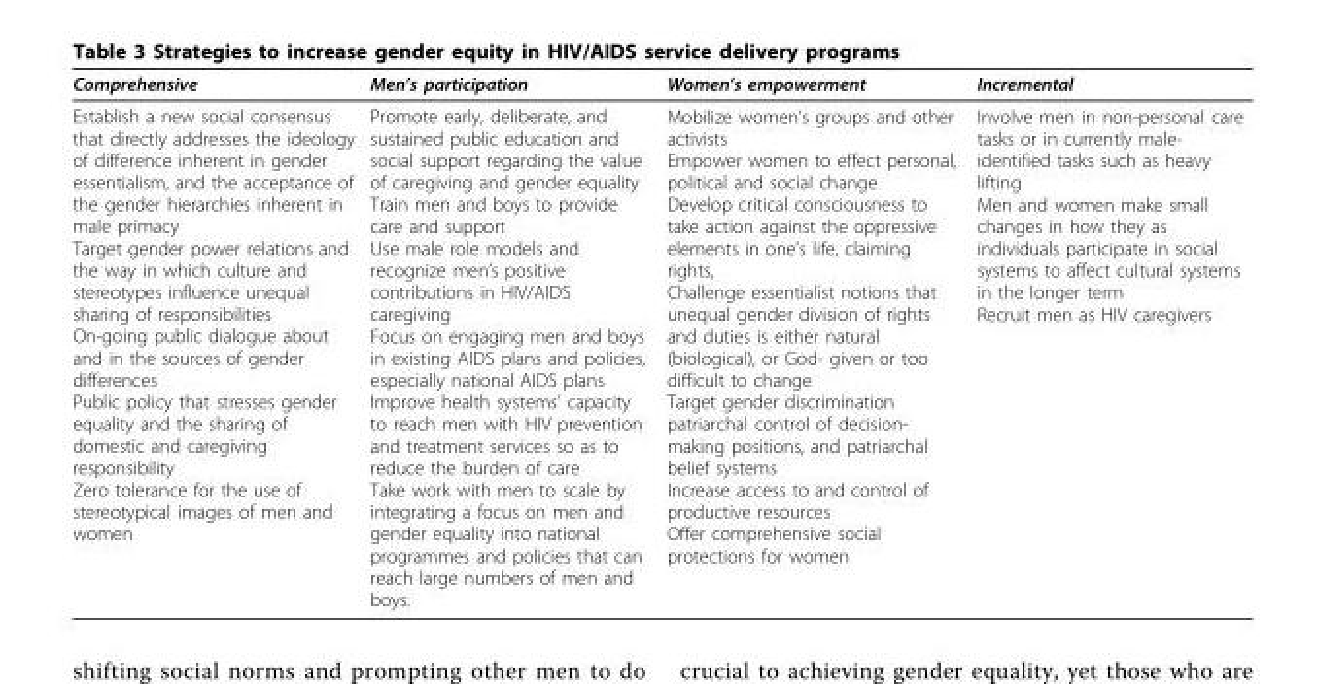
<table><thead><tr><td>Comprehensive</td><td>Men’s participation</td><td>Women’s empowerment</td><td>Incremental</td></tr></thead><tbody><tr><td>Establish a new social consensus that directly addresses the ideology of difference inherent in gender essentialism, and the acceptance of the gender hierarchies inherent in male primacy Target gender power relations and the way in which culture and stereotypes influence unequal sharing of responsibilities On-going public dialogue about and in the sources of gender differences Public policy that stresses gender equality and the sharing of domestic and caregiving responsibility Zero tolerance for the use of stereotypical images of men and women</td><td>Promote early, deliberate, and sustained public education and social support regarding the value of caregiving and gender equality Train men and boys to provide care and support Use male role models and recognize men’s positive contributions in HIV/AIDS caregiving Focus on engaging men and boys in existing AIDS plans and policies, especially national AIDS plans Improve health systems’ capacity to reach men with HIV prevention and treatment services so as to reduce the burden of care Take work with men to scale by integrating a focus on men and gender equality into national programmes and policies that can reach large numbers of men and boys.</td><td>Mobilize women’s groups and other activists Empower women to effect personal, political and social change Develop critical consciousness to take action against the oppressive elements in one’s life, claiming rights, Challenge essentialist notions that unequal gender division of rights and duties is either natural (biological), or God- given or too difficult to change Target gender discrimination patriarchal control of decision- making positions, and patriarchal belief systems Increase access to and control of productive resources Offer comprehensive social protections for women</td><td>Involve men in non-personal care tasks or in currently male- identified tasks such as heavy lifting Men and women make small changes in how they as individuals participate in social systems to affect cultural systems in the longer term Recruit men as HIV caregivers</td></tr></tbody></table>